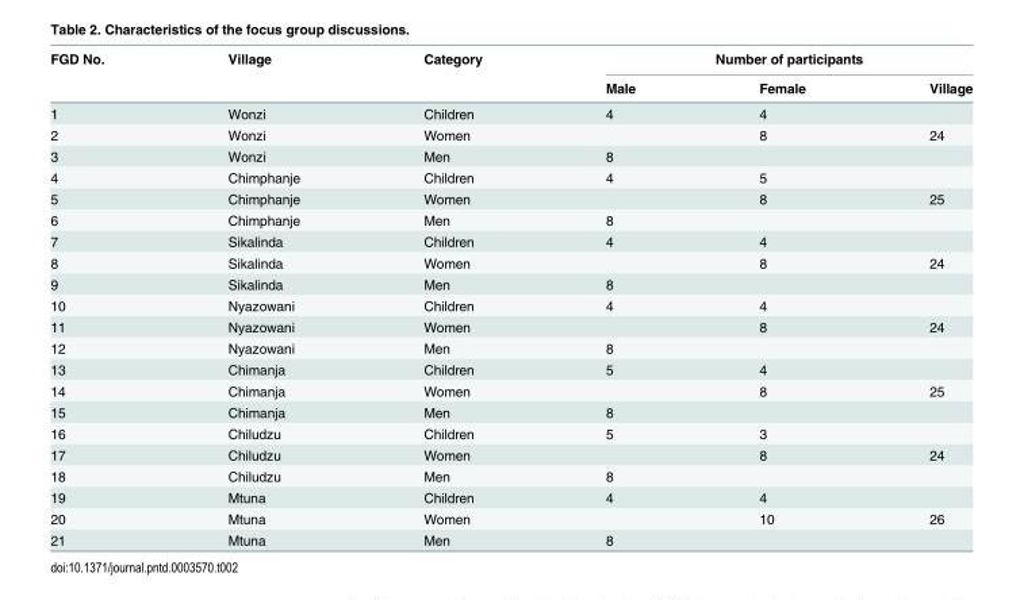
<table><thead><tr><td rowspan="2">FGD No.</td><td rowspan="2">Village</td><td rowspan="2">Category</td><td colspan="3">Number of participants</td></tr><tr><td>Male</td><td>Female</td><td>Village</td></tr></thead><tbody><tr><td>1</td><td>Wonzi</td><td>Children</td><td>4</td><td>4</td><td></td></tr><tr><td>2</td><td>Wonzi</td><td>Women</td><td></td><td>8</td><td>24</td></tr><tr><td>3</td><td>Wonzi</td><td>Men</td><td>8</td><td></td><td></td></tr><tr><td>4</td><td>Chimphanje</td><td>Children</td><td>4</td><td>5</td><td></td></tr><tr><td>5</td><td>Chimphanje</td><td>Women</td><td></td><td>8</td><td>25</td></tr><tr><td>6</td><td>Chimphanje</td><td>Men</td><td>8</td><td></td><td></td></tr><tr><td>7</td><td>Sikalinda</td><td>Children</td><td>4</td><td>4</td><td></td></tr><tr><td>8</td><td>Sikalinda</td><td>Women</td><td></td><td>8</td><td>24</td></tr><tr><td>9</td><td>Sikalinda</td><td>Men</td><td>8</td><td></td><td></td></tr><tr><td>10</td><td>Nyazowani</td><td>Children</td><td>4</td><td>4</td><td></td></tr><tr><td>11</td><td>Nyazowani</td><td>Women</td><td></td><td>8</td><td>24</td></tr><tr><td>12</td><td>Nyazowani</td><td>Men</td><td>8</td><td></td><td></td></tr><tr><td>13</td><td>Chimanja</td><td>Children</td><td>5</td><td>4</td><td></td></tr><tr><td>14</td><td>Chimanja</td><td>Women</td><td></td><td>8</td><td>25</td></tr><tr><td>15</td><td>Chimanja</td><td>Men</td><td>8</td><td></td><td></td></tr><tr><td>16</td><td>Chiludzu</td><td>Children</td><td>5</td><td>3</td><td></td></tr><tr><td>17</td><td>Chiludzu</td><td>Women</td><td></td><td>8</td><td>24</td></tr><tr><td>18</td><td>Chiludzu</td><td>Men</td><td>8</td><td></td><td></td></tr><tr><td>19</td><td>Mtuna</td><td>Children</td><td>4</td><td>4</td><td></td></tr><tr><td>20</td><td>Mtuna</td><td>Women</td><td></td><td>10</td><td>26</td></tr><tr><td>21</td><td>Mtuna</td><td>Men</td><td>8</td><td></td><td></td></tr></tbody></table>